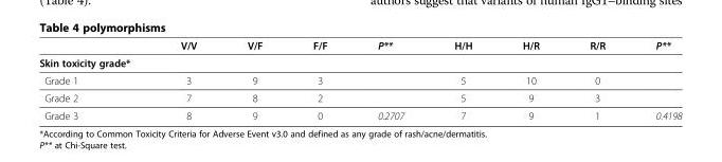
<table><thead><tr><td></td><td>V/V</td><td>V/F</td><td>F/F</td><td>P**</td><td>H/H</td><td>H/R</td><td>R/R</td><td>P**</td></tr></thead><tbody><tr><td colspan="9">Skin toxicity grade*</td></tr><tr><td>Grade 1</td><td>3</td><td>9</td><td>3</td><td></td><td>5</td><td>10</td><td>0</td><td></td></tr><tr><td>Grade 2</td><td>7</td><td>8</td><td>2</td><td></td><td>5</td><td>9</td><td>3</td><td></td></tr><tr><td>Grade 3</td><td>8</td><td>9</td><td>0</td><td>0.2707</td><td>7</td><td>9</td><td>1</td><td>0.4198</td></tr></tbody></table>